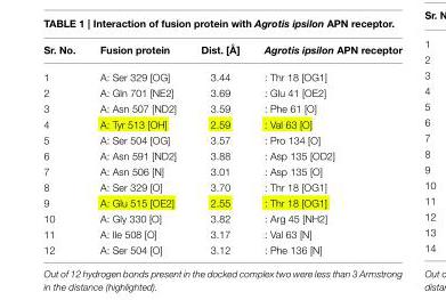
<table><thead><tr><td>Sr. No.</td><td>Fusion protein</td><td>Dist. [Å]</td><td>Agrotis ipsilon APN receptor</td></tr></thead><tbody><tr><td>1</td><td>A: Ser 329 [OG]</td><td>3.44</td><td>: Thr 18 [OG1]</td></tr><tr><td>2</td><td>A: Gln 701 [NE2]</td><td>3.69</td><td>: Glu 41 [OE2]</td></tr><tr><td>3</td><td>A: Asn 507 [ND2]</td><td>3.59</td><td>: Phe 61 [O]</td></tr><tr><td>4</td><td>A: Tyr 513 [OH]</td><td>2.59</td><td>: Val 63 [O]</td></tr><tr><td>5</td><td>A: Ser 504 [OG]</td><td>3.57</td><td>: Pro 134 [O]</td></tr><tr><td>6</td><td>A: Asn 591 [ND2]</td><td>3.88</td><td>: Asp 135 [OD2]</td></tr><tr><td>7</td><td>A: Asn 506 [N]</td><td>3.01</td><td>: Asp 135 [O]</td></tr><tr><td>8</td><td>A: Ser 329 [O]</td><td>3.70</td><td>: Thr 18 [OG1]</td></tr><tr><td>9</td><td>A: Glu 515 [OE2]</td><td>2.55</td><td>: Thr 18 [OG1]</td></tr><tr><td>10</td><td>A: Gly 330 [O]</td><td>3.82</td><td>: Arg 45 [NH2]</td></tr><tr><td>11</td><td>A: Ile 508 [O]</td><td>3.17</td><td>: Val 63 [N]</td></tr><tr><td>12</td><td>A: Ser 504 [O]</td><td>3.12</td><td>: Phe 136 [N]</td></tr></tbody></table>